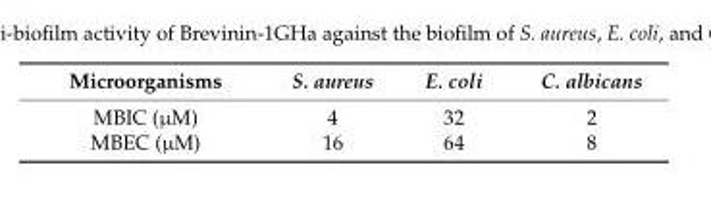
<table><thead><tr><td>Microorganisms</td><td>S. aureus</td><td>E. coli</td><td>C. albicans</td></tr></thead><tbody><tr><td>MBIC (µM)</td><td>4</td><td>32</td><td>2</td></tr><tr><td>MBEC (µM)</td><td>16</td><td>64</td><td>8</td></tr></tbody></table>